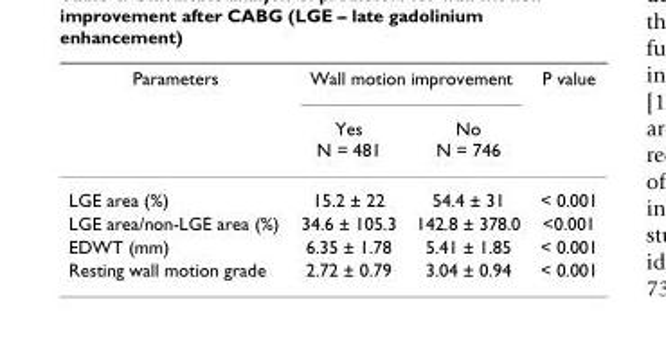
<table><thead><tr><td rowspan="2">Parameters</td><td colspan="2">Wall motion improvement</td><td rowspan="2">P value</td></tr><tr><td>Yes N = 481</td><td>No N = 746</td></tr></thead><tbody><tr><td>LGE area (%)</td><td>15.2 ± 22</td><td>54.4 ± 31</td><td>&lt; 0.001</td></tr><tr><td>LGE area/non-LGE area (%)</td><td>34.6 ± 105.3</td><td>142.8 ± 378.0</td><td>&lt;0.001</td></tr><tr><td>EDWT (mm)</td><td>6.35 ± 1.78</td><td>5.41 ± 1.85</td><td>&lt; 0.001</td></tr><tr><td>Resting wall motion grade</td><td>2.72 ± 0.79</td><td>3.04 ± 0.94</td><td>&lt; 0.001</td></tr></tbody></table>